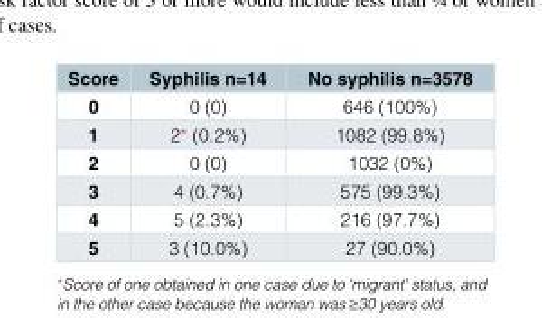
<table><thead><tr><td>Score</td><td>Syphilis n=14</td><td>No syphilis n=3578</td></tr></thead><tbody><tr><td>0</td><td>0 (0)</td><td>646 (100%)</td></tr><tr><td>1</td><td>2* (0.2%)</td><td>1082 (99.8%)</td></tr><tr><td>2</td><td>0 (0)</td><td>1032 (0%)</td></tr><tr><td>3</td><td>4 (0.7%)</td><td>575 (99.3%)</td></tr><tr><td>4</td><td>5 (2.3%)</td><td>216 (97.7%)</td></tr><tr><td>5</td><td>3 (10.0%)</td><td>27 (90.0%)</td></tr></tbody></table>